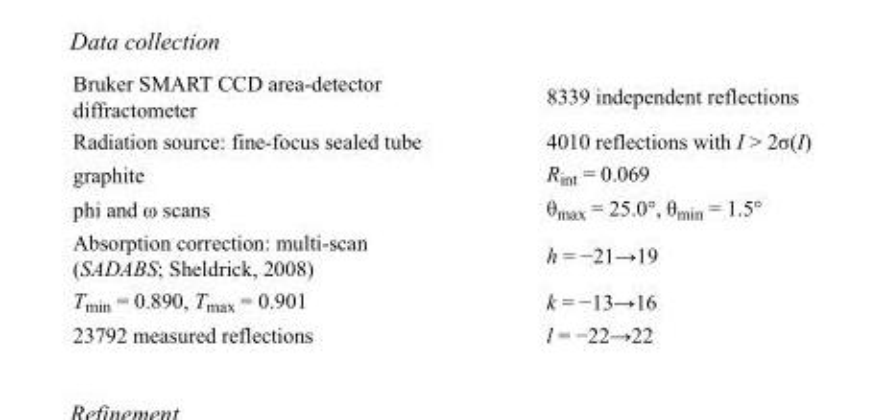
<table><tbody><tr><td>Bruker SMART CCD area-detector diffractometer</td><td>8339 independent reflections</td></tr><tr><td>Radiation source: fine-focus sealed tube</td><td>4010 reflections with I &gt; 2σ(I)</td></tr><tr><td>graphite</td><td>R<sub>int</sub> = 0.069</td></tr><tr><td>phi and ω scans</td><td>θ<sub>max</sub> = 25.0°, θ<sub>min</sub> = 1.5°</td></tr><tr><td>Absorption correction: multi-scan (SADABS; Sheldrick, 2008)</td><td>h = −21→19</td></tr><tr><td>T<sub>min</sub> = 0.890, T<sub>max</sub> = 0.901</td><td>k = −13→16</td></tr><tr><td>23792 measured reflections</td><td>l = −22→22</td></tr></tbody></table>